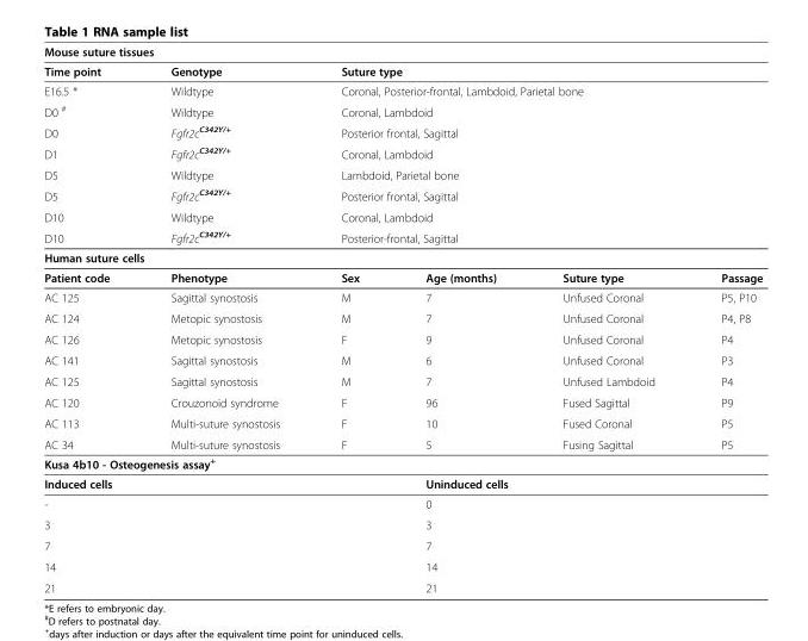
<table><thead><tr><td colspan="6">Mouse suture tissues</td></tr></thead><tbody><tr><td>Time point</td><td>Genotype</td><td colspan="4">Suture type</td></tr><tr><td>E16.5 *</td><td>Wildtype</td><td colspan="4">Coronal, Posterior-frontal, Lambdoid, Parietal bone</td></tr><tr><td>D0 <sup>#</sup></td><td>Wildtype</td><td colspan="4">Coronal, Lambdoid</td></tr><tr><td>D0</td><td>Fgfr2c<sup>C342Y/+</sup></td><td colspan="4">Posterior frontal, Sagittal</td></tr><tr><td>D1</td><td>Fgfr2c<sup>C342Y/+</sup></td><td colspan="4">Coronal, Lambdoid</td></tr><tr><td>D5</td><td>Wildtype</td><td colspan="4">Lambdoid, Parietal bone</td></tr><tr><td>D5</td><td>Fgfr2c<sup>C342Y/+</sup></td><td colspan="4">Posterior frontal, Sagittal</td></tr><tr><td>D10</td><td>Wildtype</td><td colspan="4">Coronal, Lambdoid</td></tr><tr><td>D10</td><td>Fgfr2c<sup>C342Y/+</sup></td><td colspan="4">Posterior-frontal, Sagittal</td></tr><tr><td colspan="6">Human suture cells</td></tr><tr><td>Patient code</td><td>Phenotype</td><td>Sex</td><td>Age (months)</td><td>Suture type</td><td>Passage</td></tr><tr><td>AC 125</td><td>Sagittal synostosis</td><td>M</td><td>7</td><td>Unfused Coronal</td><td>P5, P10</td></tr><tr><td>AC 124</td><td>Metopic synostosis</td><td>M</td><td>7</td><td>Unfused Coronal</td><td>P4, P8</td></tr><tr><td>AC 126</td><td>Metopic synostosis</td><td>F</td><td>9</td><td>Unfused Coronal</td><td>P4</td></tr><tr><td>AC 141</td><td>Sagittal synostosis</td><td>M</td><td>6</td><td>Unfused Coronal</td><td>P3</td></tr><tr><td>AC 125</td><td>Sagittal synostosis</td><td>M</td><td>7</td><td>Unfused Lambdoid</td><td>P4</td></tr><tr><td>AC 120</td><td>Crouzonoid syndrome</td><td>F</td><td>96</td><td>Fused Sagittal</td><td>P9</td></tr><tr><td>AC 113</td><td>Multi-suture synostosis</td><td>F</td><td>10</td><td>Fused Coronal</td><td>P5</td></tr><tr><td>AC 34</td><td>Multi-suture synostosis</td><td>F</td><td>5</td><td>Fusing Sagittal</td><td>P5</td></tr><tr><td colspan="6">Kusa 4b10 - Osteogenesis assay<sup>+</sup></td></tr><tr><td colspan="3">Induced cells</td><td colspan="3">Uninduced cells</td></tr><tr><td colspan="3">-</td><td colspan="3">0</td></tr><tr><td colspan="3">3</td><td colspan="3">3</td></tr><tr><td colspan="3">7</td><td colspan="3">7</td></tr><tr><td colspan="3">14</td><td colspan="3">14</td></tr><tr><td colspan="3">21</td><td colspan="3">21</td></tr></tbody></table>